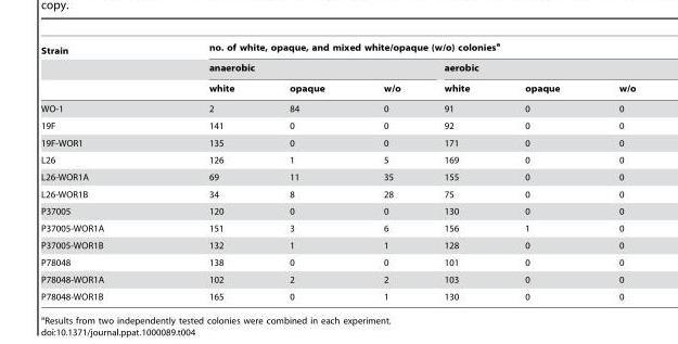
<table><thead><tr><td rowspan="3">Strain</td><td colspan="6">no. of white, opaque, and mixed white/opaque (w/o) colonies<sup>a</sup></td></tr><tr><td colspan="3">anaerobic</td><td colspan="3">aerobic</td></tr><tr><td>white</td><td>opaque</td><td>w/o</td><td>white</td><td>opaque</td><td>w/o</td></tr></thead><tbody><tr><td>WO-1</td><td>2</td><td>84</td><td>0</td><td>91</td><td>0</td><td>0</td></tr><tr><td>19F</td><td>141</td><td>0</td><td>0</td><td>92</td><td>0</td><td>0</td></tr><tr><td>19F-WOR1</td><td>135</td><td>0</td><td>0</td><td>171</td><td>0</td><td>0</td></tr><tr><td>L26</td><td>126</td><td>1</td><td>5</td><td>169</td><td>0</td><td>0</td></tr><tr><td>L26-WOR1A</td><td>69</td><td>11</td><td>35</td><td>155</td><td>0</td><td>0</td></tr><tr><td>L26-WOR1B</td><td>34</td><td>8</td><td>28</td><td>75</td><td>0</td><td>0</td></tr><tr><td>P37005</td><td>120</td><td>0</td><td>0</td><td>130</td><td>0</td><td>0</td></tr><tr><td>P37005-WOR1A</td><td>151</td><td>3</td><td>6</td><td>156</td><td>1</td><td>0</td></tr><tr><td>P37005-WOR1B</td><td>132</td><td>1</td><td>1</td><td>128</td><td>0</td><td>0</td></tr><tr><td>P78048</td><td>138</td><td>0</td><td>0</td><td>101</td><td>0</td><td>0</td></tr><tr><td>P78048-WOR1A</td><td>102</td><td>2</td><td>2</td><td>103</td><td>0</td><td>0</td></tr><tr><td>P78048-WOR1B</td><td>165</td><td>0</td><td>1</td><td>130</td><td>0</td><td>0</td></tr></tbody></table>